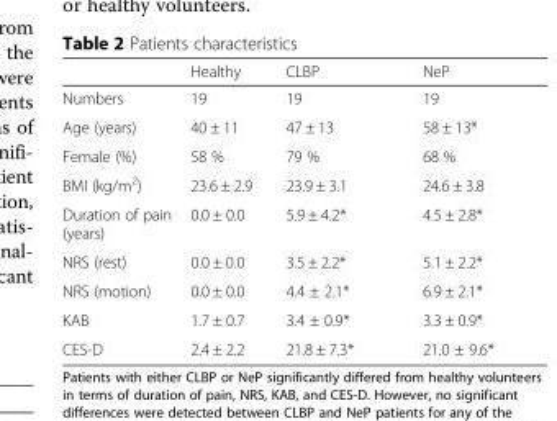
<table><thead><tr><td></td><td>Healthy</td><td>CLBP</td><td>NeP</td></tr></thead><tbody><tr><td>Numbers</td><td>19</td><td>19</td><td>19</td></tr><tr><td>Age (years)</td><td>40 ± 11</td><td>47 ± 13</td><td>58 ± 13*</td></tr><tr><td>Female (%)</td><td>58 %</td><td>79 %</td><td>68 %</td></tr><tr><td>BMI (kg/m<sup>2</sup>)</td><td>23.6 ± 2.9</td><td>23.9 ± 3.1</td><td>24.6 ± 3.8</td></tr><tr><td>Duration of pain (years)</td><td>0.0 ± 0.0</td><td>5.9 ± 4.2*</td><td>4.5 ± 2.8*</td></tr><tr><td>NRS (rest)</td><td>0.0 ± 0.0</td><td>3.5 ± 2.2*</td><td>5.1 ± 2.2*</td></tr><tr><td>NRS (motion)</td><td>0.0 ± 0.0</td><td>4.4 ± 2.1*</td><td>6.9 ± 2.1*</td></tr><tr><td>KAB</td><td>1.7 ± 0.7</td><td>3.4 ± 0.9*</td><td>3.3 ± 0.9*</td></tr><tr><td>CES-D</td><td>2.4 ± 2.2</td><td>21.8 ± 7.3*</td><td>21.0 ± 9.6*</td></tr></tbody></table>